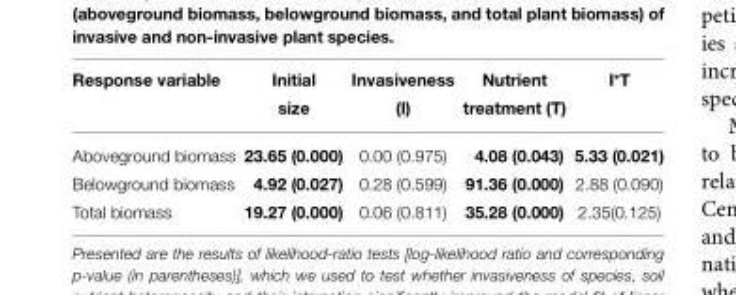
<table><thead><tr><td>Response variable</td><td>Initial size</td><td>Invasiveness (I)</td><td>Nutrient treatment (T)</td><td>I*T</td></tr></thead><tbody><tr><td>Aboveground biomass</td><td>23.65 (0.000)</td><td>0.00 (0.975)</td><td>4.08 (0.043)</td><td>5.33 (0.021)</td></tr><tr><td>Belowground biomass</td><td>4.92 (0.027)</td><td>0.28 (0.599)</td><td>91.36 (0.000)</td><td>2.88 (0.090)</td></tr><tr><td>Total biomass</td><td>19.27 (0.000)</td><td>0.06 (0.811)</td><td>35.28 (0.000)</td><td>2.35(0.125)</td></tr></tbody></table>